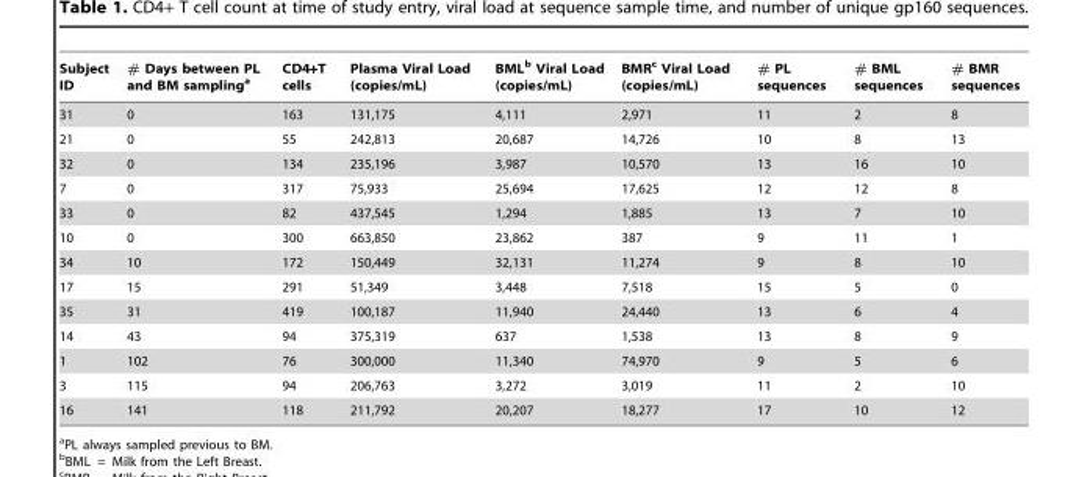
<table><thead><tr><td>Subject ID</td><td># Days between PL and BM sampling<sup>a</sup></td><td>CD4+T cells</td><td>Plasma Viral Load (copies/mL)</td><td>BML<sup>b</sup> Viral Load (copies/mL)</td><td>BMR<sup>c</sup> Viral Load (copies/mL)</td><td># PL sequences</td><td># BML sequences</td><td># BMR sequences</td></tr></thead><tbody><tr><td>31</td><td>0</td><td>163</td><td>131,175</td><td>4,111</td><td>2,971</td><td>11</td><td>2</td><td>8</td></tr><tr><td>21</td><td>0</td><td>55</td><td>242,813</td><td>20,687</td><td>14,726</td><td>10</td><td>8</td><td>13</td></tr><tr><td>32</td><td>0</td><td>134</td><td>235,196</td><td>3,987</td><td>10,570</td><td>13</td><td>16</td><td>10</td></tr><tr><td>7</td><td>0</td><td>317</td><td>75,933</td><td>25,694</td><td>17,625</td><td>12</td><td>12</td><td>8</td></tr><tr><td>33</td><td>0</td><td>82</td><td>437,545</td><td>1,294</td><td>1,885</td><td>13</td><td>7</td><td>10</td></tr><tr><td>10</td><td>0</td><td>300</td><td>663,850</td><td>23,862</td><td>387</td><td>9</td><td>11</td><td>1</td></tr><tr><td>34</td><td>10</td><td>172</td><td>150,449</td><td>32,131</td><td>11,274</td><td>9</td><td>8</td><td>10</td></tr><tr><td>17</td><td>15</td><td>291</td><td>51,349</td><td>3,448</td><td>7,518</td><td>15</td><td>5</td><td>0</td></tr><tr><td>35</td><td>31</td><td>419</td><td>100,187</td><td>11,940</td><td>24,440</td><td>13</td><td>6</td><td>4</td></tr><tr><td>14</td><td>43</td><td>94</td><td>375,319</td><td>637</td><td>1,538</td><td>13</td><td>8</td><td>9</td></tr><tr><td>1</td><td>102</td><td>76</td><td>300,000</td><td>11,340</td><td>74,970</td><td>9</td><td>5</td><td>6</td></tr><tr><td>3</td><td>115</td><td>94</td><td>206,763</td><td>3,272</td><td>3,019</td><td>11</td><td>2</td><td>10</td></tr><tr><td>16</td><td>141</td><td>118</td><td>211,792</td><td>20,207</td><td>18,277</td><td>17</td><td>10</td><td>12</td></tr></tbody></table>